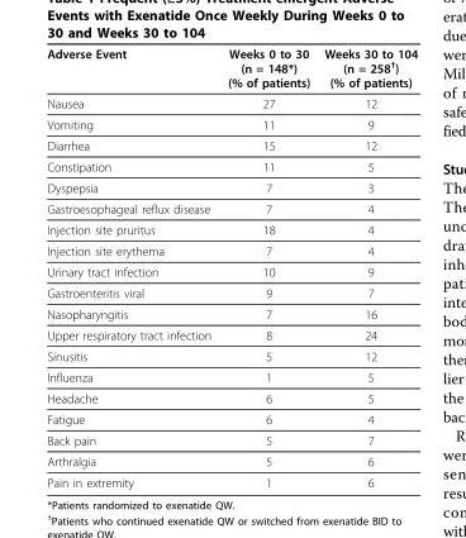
<table><thead><tr><td>Adverse Event</td><td>Weeks 0 to 30 (n = 148*) (% of patients)</td><td>Weeks 30 to 104 (n = 258<sup>†</sup>) (% of patients)</td></tr></thead><tbody><tr><td>Nausea</td><td>27</td><td>12</td></tr><tr><td>Vomiting</td><td>11</td><td>9</td></tr><tr><td>Diarrhea</td><td>15</td><td>12</td></tr><tr><td>Constipation</td><td>11</td><td>5</td></tr><tr><td>Dyspepsia</td><td>7</td><td>3</td></tr><tr><td>Gastroesophageal reflux disease</td><td>7</td><td>4</td></tr><tr><td>Injection site pruritus</td><td>18</td><td>4</td></tr><tr><td>Injection site erythema</td><td>7</td><td>4</td></tr><tr><td>Urinary tract infection</td><td>10</td><td>9</td></tr><tr><td>Gastroenteritis viral</td><td>9</td><td>7</td></tr><tr><td>Nasopharyngitis</td><td>7</td><td>16</td></tr><tr><td>Upper respiratory tract infection</td><td>8</td><td>24</td></tr><tr><td>Sinusitis</td><td>5</td><td>12</td></tr><tr><td>Influenza</td><td>1</td><td>5</td></tr><tr><td>Headache</td><td>6</td><td>5</td></tr><tr><td>Fatigue</td><td>6</td><td>4</td></tr><tr><td>Back pain</td><td>5</td><td>7</td></tr><tr><td>Arthralgia</td><td>5</td><td>6</td></tr><tr><td>Pain in extremity</td><td>1</td><td>6</td></tr></tbody></table>